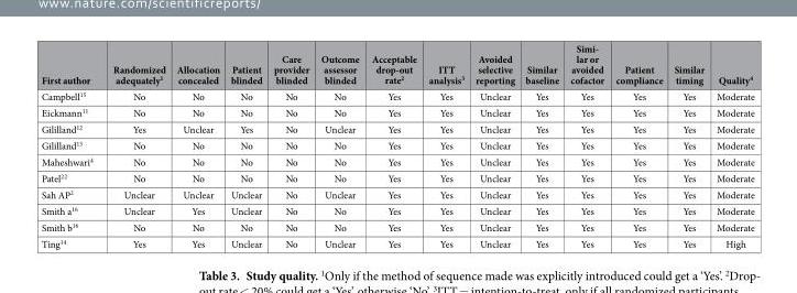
<table><thead><tr><td>First author</td><td>Randomized adequately<sup>1</sup></td><td>Allocation concealed</td><td>Patient blinded</td><td>Care provider blinded</td><td>Outcome assessor blinded</td><td>Acceptable drop-out rate<sup>2</sup></td><td>ITT analysis<sup>3</sup></td><td>Avoided selective reporting</td><td>Similar baseline</td><td>Simi- lar or avoided cofactor</td><td>Patient compliance</td><td>Similar timing</td><td>Quality<sup>4</sup></td></tr></thead><tbody><tr><td>Campbell<sup>15</sup></td><td>No</td><td>No</td><td>No</td><td>No</td><td>No</td><td>Yes</td><td>Yes</td><td>Unclear</td><td>Yes</td><td>Yes</td><td>Yes</td><td>Yes</td><td>Moderate</td></tr><tr><td>Eickmann<sup>11</sup></td><td>No</td><td>No</td><td>No</td><td>No</td><td>No</td><td>Yes</td><td>Yes</td><td>Unclear</td><td>Yes</td><td>Yes</td><td>Yes</td><td>Yes</td><td>Moderate</td></tr><tr><td>Gililland<sup>12</sup></td><td>Yes</td><td>Unclear</td><td>Yes</td><td>No</td><td>Unclear</td><td>Yes</td><td>Yes</td><td>Unclear</td><td>Yes</td><td>Yes</td><td>Yes</td><td>Yes</td><td>Moderate</td></tr><tr><td>Gililland<sup>13</sup></td><td>No</td><td>No</td><td>No</td><td>No</td><td>No</td><td>Yes</td><td>Yes</td><td>Unclear</td><td>Yes</td><td>Yes</td><td>Yes</td><td>Yes</td><td>Moderate</td></tr><tr><td>Maheshwari<sup>4</sup></td><td>No</td><td>No</td><td>No</td><td>No</td><td>No</td><td>Yes</td><td>Yes</td><td>Unclear</td><td>Yes</td><td>Yes</td><td>Yes</td><td>Yes</td><td>Moderate</td></tr><tr><td>Patel<sup>22</sup></td><td>No</td><td>No</td><td>No</td><td>No</td><td>No</td><td>Yes</td><td>Yes</td><td>Unclear</td><td>Yes</td><td>Yes</td><td>Yes</td><td>Yes</td><td>Moderate</td></tr><tr><td>Sah AP<sup>2</sup></td><td>Unclear</td><td>Unclear</td><td>Unclear</td><td>No</td><td>Unclear</td><td>Yes</td><td>Yes</td><td>Unclear</td><td>Yes</td><td>Yes</td><td>Yes</td><td>Yes</td><td>Moderate</td></tr><tr><td>Smith a<sup>16</sup></td><td>Unclear</td><td>Yes</td><td>Unclear</td><td>No</td><td>No</td><td>Yes</td><td>Yes</td><td>Unclear</td><td>Yes</td><td>Yes</td><td>Yes</td><td>Yes</td><td>Moderate</td></tr><tr><td>Smith b<sup>16</sup></td><td>No</td><td>No</td><td>No</td><td>No</td><td>No</td><td>Yes</td><td>Yes</td><td>Unclear</td><td>Yes</td><td>Yes</td><td>Yes</td><td>Yes</td><td>Moderate</td></tr><tr><td>Ting<sup>14</sup></td><td>Yes</td><td>Yes</td><td>Unclear</td><td>No</td><td>Unclear</td><td>Yes</td><td>Yes</td><td>Unclear</td><td>Yes</td><td>Yes</td><td>Yes</td><td>Yes</td><td>High</td></tr></tbody></table>